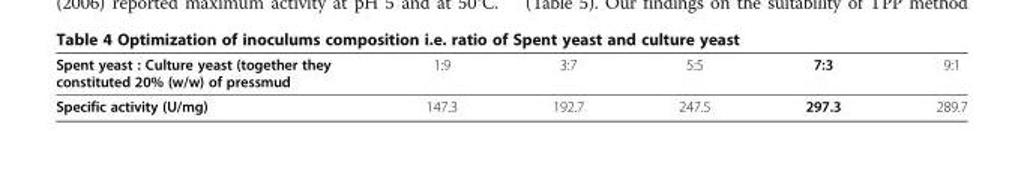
<table><tbody><tr><td>Spent yeast : Culture yeast (together they constituted 20% (w/w) of pressmud</td><td>1:9</td><td>3:7</td><td>5:5</td><td>7:3</td><td>9:1</td></tr><tr><td>Specific activity (U/mg)</td><td>147.3</td><td>192.7</td><td>247.5</td><td>297.3</td><td>289.7</td></tr></tbody></table>